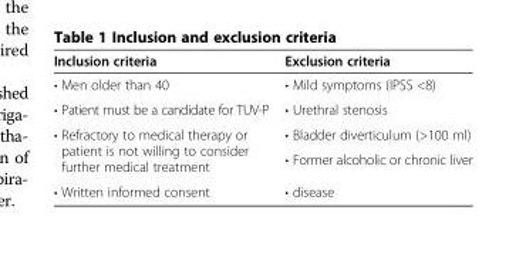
<table><thead><tr><td>Inclusion criteria</td><td>Exclusion criteria</td></tr></thead><tbody><tr><td>• Men older than 40</td><td>• Mild symptoms (IPSS &lt;8)</td></tr><tr><td>• Patient must be a candidate for TUV-P</td><td>• Urethral stenosis</td></tr><tr><td rowspan="2">• Refractory to medical therapy or patient is not willing to consider further medical treatment</td><td>• Bladder diverticulum (&gt;100 ml)</td></tr><tr><td>• Former alcoholic or chronic liver</td></tr><tr><td>• Written informed consent</td><td>• disease</td></tr></tbody></table>